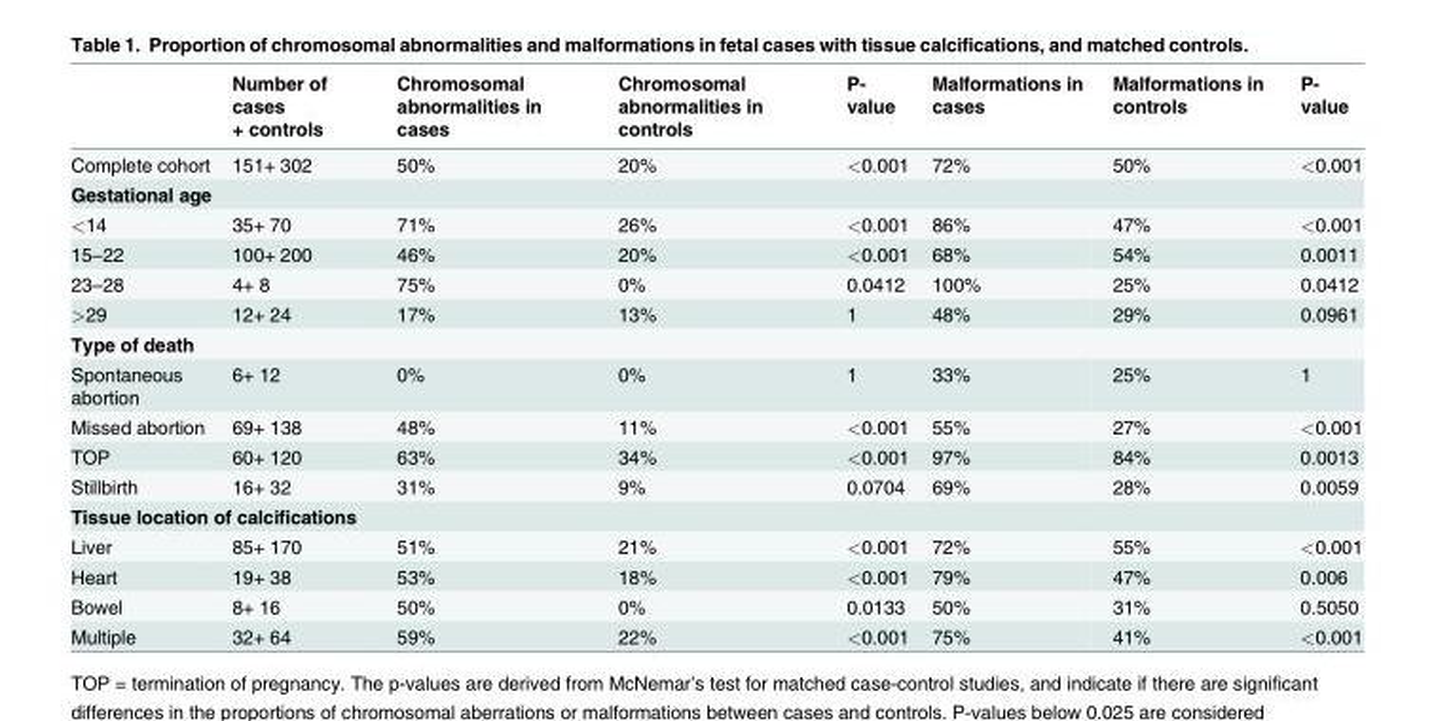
<table><thead><tr><td></td><td>Number of cases + controls</td><td>Chromosomal abnormalities in cases</td><td>Chromosomal abnormalities in controls</td><td>P- value</td><td>Malformations in cases</td><td>Malformations in controls</td><td>P- value</td></tr></thead><tbody><tr><td>Complete cohort</td><td>151+ 302</td><td>50%</td><td>20%</td><td>&lt;0.001</td><td>72%</td><td>50%</td><td>&lt;0.001</td></tr><tr><td colspan="8">Gestational age</td></tr><tr><td>&lt;14</td><td>35+ 70</td><td>71%</td><td>26%</td><td>&lt;0.001</td><td>86%</td><td>47%</td><td>&lt;0.001</td></tr><tr><td>15–22</td><td>100+ 200</td><td>46%</td><td>20%</td><td>&lt;0.001</td><td>68%</td><td>54%</td><td>0.0011</td></tr><tr><td>23–28</td><td>4+ 8</td><td>75%</td><td>0%</td><td>0.0412</td><td>100%</td><td>25%</td><td>0.0412</td></tr><tr><td>&gt;29</td><td>12+ 24</td><td>17%</td><td>13%</td><td>1</td><td>48%</td><td>29%</td><td>0.0961</td></tr><tr><td colspan="8">Type of death</td></tr><tr><td>Spontaneous abortion</td><td>6+ 12</td><td>0%</td><td>0%</td><td>1</td><td>33%</td><td>25%</td><td>1</td></tr><tr><td>Missed abortion</td><td>69+ 138</td><td>48%</td><td>11%</td><td>&lt;0.001</td><td>55%</td><td>27%</td><td>&lt;0.001</td></tr><tr><td>TOP</td><td>60+ 120</td><td>63%</td><td>34%</td><td>&lt;0.001</td><td>97%</td><td>84%</td><td>0.0013</td></tr><tr><td>Stillbirth</td><td>16+ 32</td><td>31%</td><td>9%</td><td>0.0704</td><td>69%</td><td>28%</td><td>0.0059</td></tr><tr><td colspan="8">Tissue location of calcifications</td></tr><tr><td>Liver</td><td>85+ 170</td><td>51%</td><td>21%</td><td>&lt;0.001</td><td>72%</td><td>55%</td><td>&lt;0.001</td></tr><tr><td>Heart</td><td>19+ 38</td><td>53%</td><td>18%</td><td>&lt;0.001</td><td>79%</td><td>47%</td><td>0.006</td></tr><tr><td>Bowel</td><td>8+ 16</td><td>50%</td><td>0%</td><td>0.0133</td><td>50%</td><td>31%</td><td>0.5050</td></tr><tr><td>Multiple</td><td>32+ 64</td><td>59%</td><td>22%</td><td>&lt;0.001</td><td>75%</td><td>41%</td><td>&lt;0.001</td></tr></tbody></table>